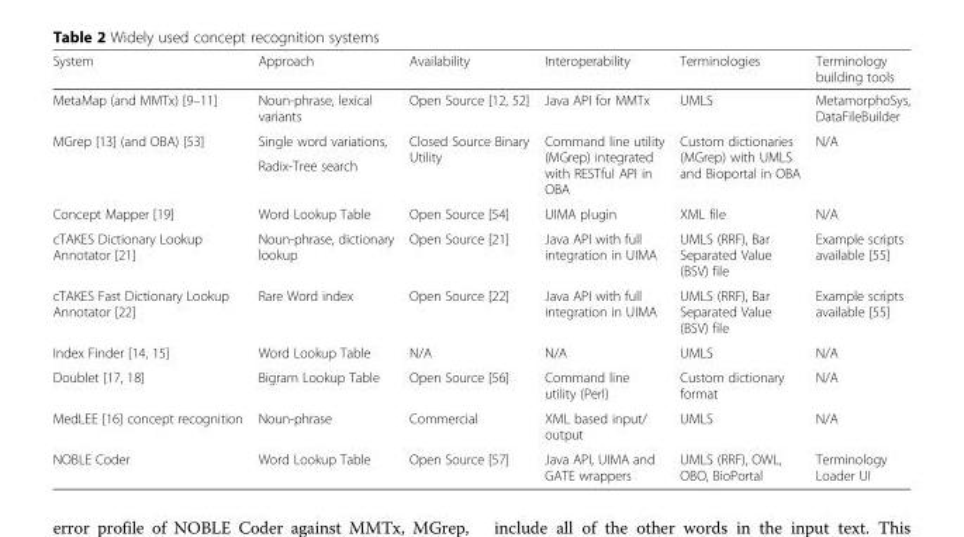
<table><thead><tr><td>System</td><td>Approach</td><td>Availability</td><td>Interoperability</td><td>Terminologies</td><td>Terminology building tools</td></tr></thead><tbody><tr><td>MetaMap (and MMTx) [9–11]</td><td>Noun-phrase, lexical variants</td><td>Open Source [12, 52]</td><td>Java API for MMTx</td><td>UMLS</td><td>MetamorphoSys, DataFileBuilder</td></tr><tr><td rowspan="2">MGrep [13] (and OBA) [53]</td><td>Single word variations,</td><td rowspan="2">Closed Source Binary Utility</td><td rowspan="2">Command line utility (MGrep) integrated with RESTful API in OBA</td><td rowspan="2">Custom dictionaries (MGrep) with UMLS and Bioportal in OBA</td><td rowspan="2">N/A</td></tr><tr><td>Radix-Tree search</td></tr><tr><td>Concept Mapper [19]</td><td>Word Lookup Table</td><td>Open Source [54]</td><td>UIMA plugin</td><td>XML file</td><td>N/A</td></tr><tr><td>cTAKES Dictionary Lookup Annotator [21]</td><td>Noun-phrase, dictionary lookup</td><td>Open Source [21]</td><td>Java API with full integration in UIMA</td><td>UMLS (RRF), Bar Separated Value (BSV) file</td><td>Example scripts available [55]</td></tr><tr><td>cTAKES Fast Dictionary Lookup Annotator [22]</td><td>Rare Word index</td><td>Open Source [22]</td><td>Java API with full integration in UIMA</td><td>UMLS (RRF), Bar Separated Value (BSV) file</td><td>Example scripts available [55]</td></tr><tr><td>Index Finder [14, 15]</td><td>Word Lookup Table</td><td>N/A</td><td>N/A</td><td>UMLS</td><td>N/A</td></tr><tr><td>Doublet [17, 18]</td><td>Bigram Lookup Table</td><td>Open Source [56]</td><td>Command line utility (Perl)</td><td>Custom dictionary format</td><td>N/A</td></tr><tr><td>MedLEE [16] concept recognition</td><td>Noun-phrase</td><td>Commercial</td><td>XML based input/ output</td><td>UMLS</td><td>N/A</td></tr><tr><td>NOBLE Coder</td><td>Word Lookup Table</td><td>Open Source [57]</td><td>Java API, UIMA and GATE wrappers</td><td>UMLS (RRF), OWL, OBO, BioPortal</td><td>Terminology Loader UI</td></tr></tbody></table>